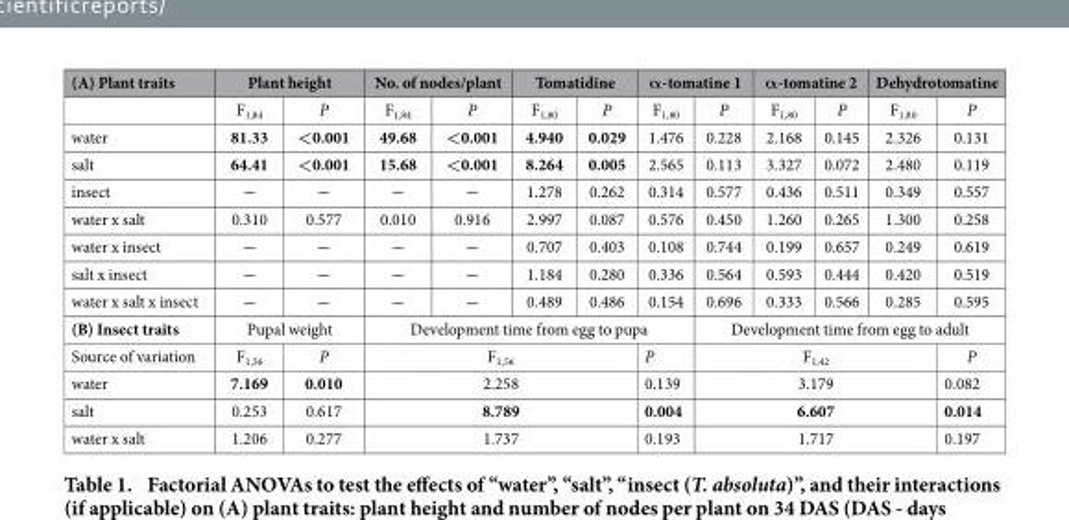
<table><thead><tr><td rowspan="2">(A) Plant traits</td><td colspan="2">Plant height</td><td colspan="2">No. of nodes/plant</td><td colspan="2">Tomatidine</td><td colspan="2">α-tomatine 1</td><td colspan="2">α-tomatine 2</td><td colspan="2">Dehydrotomatine</td></tr><tr><td>F<sub>1,84</sub></td><td>P</td><td>F<sub>1,84</sub></td><td>P</td><td>F<sub>1,80</sub></td><td>P</td><td>F<sub>1,80</sub></td><td>P</td><td>F<sub>1,80</sub></td><td>P</td><td>F<sub>1,80</sub></td><td>P</td></tr></thead><tbody><tr><td>water</td><td>81.33</td><td>&lt;0.001</td><td>49.68</td><td>&lt;0.001</td><td>4.940</td><td>0.029</td><td>1.476</td><td>0.228</td><td>2.168</td><td>0.145</td><td>2.326</td><td>0.131</td></tr><tr><td>salt</td><td>64.41</td><td>&lt;0.001</td><td>15.68</td><td>&lt;0.001</td><td>8.264</td><td>0.005</td><td>2.565</td><td>0.113</td><td>3.327</td><td>0.072</td><td>2.480</td><td>0.119</td></tr><tr><td>insect</td><td>−</td><td>−</td><td>−</td><td>−</td><td>1.278</td><td>0.262</td><td>0.314</td><td>0.577</td><td>0.436</td><td>0.511</td><td>0.349</td><td>0.557</td></tr><tr><td>water x salt</td><td>0.310</td><td>0.577</td><td>0.010</td><td>0.916</td><td>2.997</td><td>0.087</td><td>0.576</td><td>0.450</td><td>1.260</td><td>0.265</td><td>1.300</td><td>0.258</td></tr><tr><td>water x insect</td><td>−</td><td>−</td><td>−</td><td>−</td><td>0.707</td><td>0.403</td><td>0.108</td><td>0.744</td><td>0.199</td><td>0.657</td><td>0.249</td><td>0.619</td></tr><tr><td>salt x insect</td><td>−</td><td>−</td><td>−</td><td>−</td><td>1.184</td><td>0.280</td><td>0.336</td><td>0.564</td><td>0.593</td><td>0.444</td><td>0.420</td><td>0.519</td></tr><tr><td>water x salt x insect</td><td>−</td><td>−</td><td>−</td><td>−</td><td>0.489</td><td>0.486</td><td>0.154</td><td>0.696</td><td>0.333</td><td>0.566</td><td>0.285</td><td>0.595</td></tr><tr><td>(B) Insect traits</td><td colspan="2">Pupal weight</td><td colspan="5">Development time from egg to pupa</td><td colspan="5">Development time from egg to adult</td></tr><tr><td>Source of variation</td><td>F<sub>1,56</sub></td><td>P</td><td colspan="4">F<sub>1,56</sub></td><td>P</td><td colspan="4">F<sub>1,42</sub></td><td>P</td></tr><tr><td>water</td><td>7.169</td><td>0.010</td><td colspan="4">2.258</td><td>0.139</td><td colspan="4">3.179</td><td>0.082</td></tr><tr><td>salt</td><td>0.253</td><td>0.617</td><td colspan="4">8.789</td><td>0.004</td><td colspan="4">6.607</td><td>0.014</td></tr><tr><td>water x salt</td><td>1.206</td><td>0.277</td><td colspan="4">1.737</td><td>0.193</td><td colspan="4">1.717</td><td>0.197</td></tr></tbody></table>